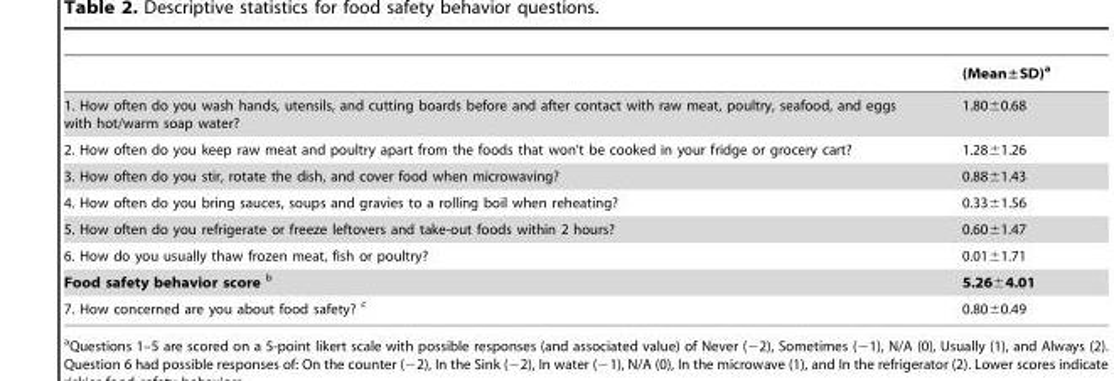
<table><thead><tr><td></td><td>(Mean±SD)<sup>a</sup></td></tr></thead><tbody><tr><td>1. How often do you wash hands, utensils, and cutting boards before and after contact with raw meat, poultry, seafood, and eggs with hot/warm soap water?</td><td>1.80±0.68</td></tr><tr><td>2. How often do you keep raw meat and poultry apart from the foods that won’t be cooked in your fridge or grocery cart?</td><td>1.28±1.26</td></tr><tr><td>3. How often do you stir, rotate the dish, and cover food when microwaving?</td><td>0.88±1.43</td></tr><tr><td>4. How often do you bring sauces, soups and gravies to a rolling boil when reheating?</td><td>0.33±1.56</td></tr><tr><td>5. How often do you refrigerate or freeze leftovers and take-out foods within 2 hours?</td><td>0.60±1.47</td></tr><tr><td>6. How do you usually thaw frozen meat, fish or poultry?</td><td>0.01±1.71</td></tr><tr><td>Food safety behavior score b</td><td>5.26±4.01</td></tr><tr><td>7. How concerned are you about food safety? c</td><td>0.80±0.49</td></tr></tbody></table>